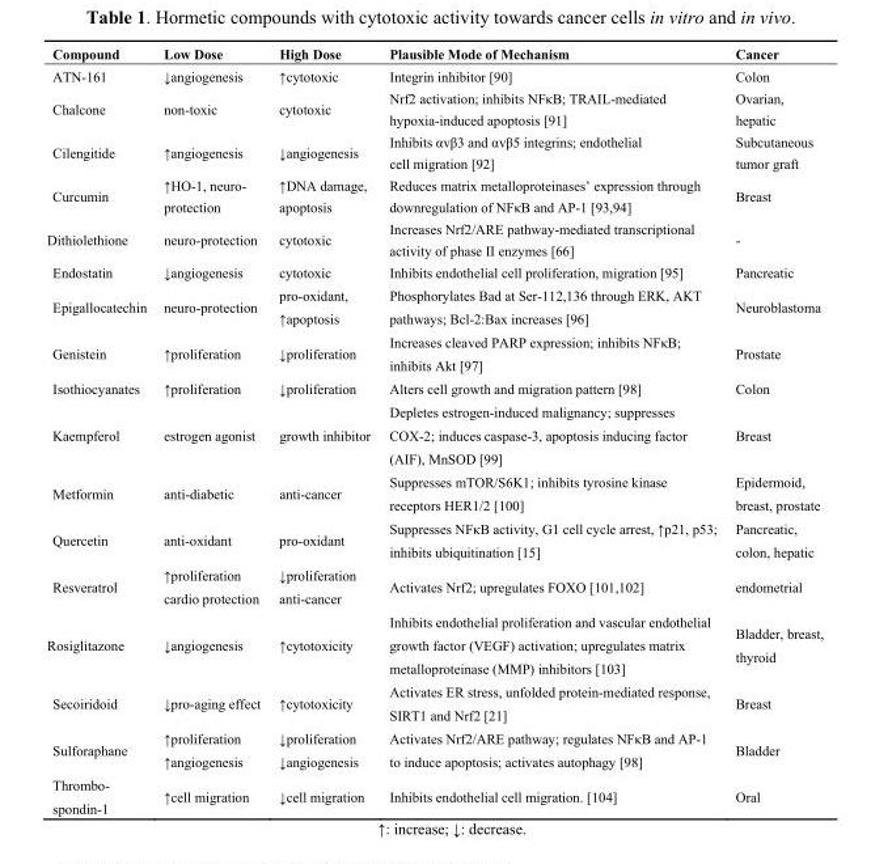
<table><thead><tr><td>Compound</td><td>Low Dose</td><td>High Dose</td><td>Plausible Mode of Mechanism</td><td>Cancer</td></tr></thead><tbody><tr><td>ATN-161</td><td>↓angiogenesis</td><td>↑cytotoxic</td><td>Integrin inhibitor [90]</td><td>Colon</td></tr><tr><td>Chalcone</td><td>non-toxic</td><td>cytotoxic</td><td>Nrf2 activation; inhibits NFκB; TRAIL-mediated hypoxia-induced apoptosis [91]</td><td>Ovarian, hepatic</td></tr><tr><td>Cilengitide</td><td>↑angiogenesis</td><td>↓angiogenesis</td><td>Inhibits αvβ3 and αvβ5 integrins; endothelial cell migration [92]</td><td>Subcutaneous tumor graft</td></tr><tr><td>Curcumin</td><td>↑HO-1, neuro- protection</td><td>↑DNA damage, apoptosis</td><td>Reduces matrix metalloproteinases’ expression through downregulation of NFκB and AP-1 [93,94]</td><td>Breast</td></tr><tr><td>Dithiolethione</td><td>neuro-protection</td><td>cytotoxic</td><td>Increases Nrf2/ARE pathway-mediated transcriptional activity of phase II enzymes [66]</td><td>-</td></tr><tr><td>Endostatin</td><td>↓angiogenesis</td><td>cytotoxic</td><td>Inhibits endothelial cell proliferation, migration [95]</td><td>Pancreatic</td></tr><tr><td>Epigallocatechin</td><td>neuro-protection</td><td>pro-oxidant, ↑apoptosis</td><td>Phosphorylates Bad at Ser-112,136 through ERK, AKT pathways; Bcl-2:Bax increases [96]</td><td>Neuroblastoma</td></tr><tr><td>Genistein</td><td>↑proliferation</td><td>↓proliferation</td><td>Increases cleaved PARP expression; inhibits NFκB; inhibits Akt [97]</td><td>Prostate</td></tr><tr><td>Isothiocyanates</td><td>↑proliferation</td><td>↓proliferation</td><td>Alters cell growth and migration pattern [98]</td><td>Colon</td></tr><tr><td>Kaempferol</td><td>estrogen agonist</td><td>growth inhibitor</td><td>Depletes estrogen-induced malignancy; suppresses COX-2; induces caspase-3, apoptosis inducing factor (AIF), MnSOD [99]</td><td>Breast</td></tr><tr><td>Metformin</td><td>anti-diabetic</td><td>anti-cancer</td><td>Suppresses mTOR/S6K1; inhibits tyrosine kinase receptors HER1/2 [100]</td><td>Epidermoid, breast, prostate</td></tr><tr><td>Quercetin</td><td>anti-oxidant</td><td>pro-oxidant</td><td>Suppresses NFκB activity, G1 cell cycle arrest, ↑p21, p53; inhibits ubiquitination [15]</td><td>Pancreatic, colon, hepatic</td></tr><tr><td>Resveratrol</td><td>↑proliferation cardio protection</td><td>↓proliferation anti-cancer</td><td>Activates Nrf2; upregulates FOXO [101,102]</td><td>endometrial</td></tr><tr><td>Rosiglitazone</td><td>↓angiogenesis</td><td>↑cytotoxicity</td><td>Inhibits endothelial proliferation and vascular endothelial growth factor (VEGF) activation; upregulates matrix metalloproteinase (MMP) inhibitors [103]</td><td>Bladder, breast, thyroid</td></tr><tr><td>Secoiridoid</td><td>↓pro-aging effect</td><td>↑cytotoxicity</td><td>Activates ER stress, unfolded protein-mediated response, SIRT1 and Nrf2 [21]</td><td>Breast</td></tr><tr><td>Sulforaphane</td><td>↑proliferation ↑angiogenesis</td><td>↓proliferation ↓angiogenesis</td><td>Activates Nrf2/ARE pathway; regulates NFκB and AP-1 to induce apoptosis; activates autophagy [98]</td><td>Bladder</td></tr><tr><td>Thrombo- spondin-1</td><td>↑cell migration</td><td>↓cell migration</td><td>Inhibits endothelial cell migration. [104]</td><td>Oral</td></tr></tbody></table>